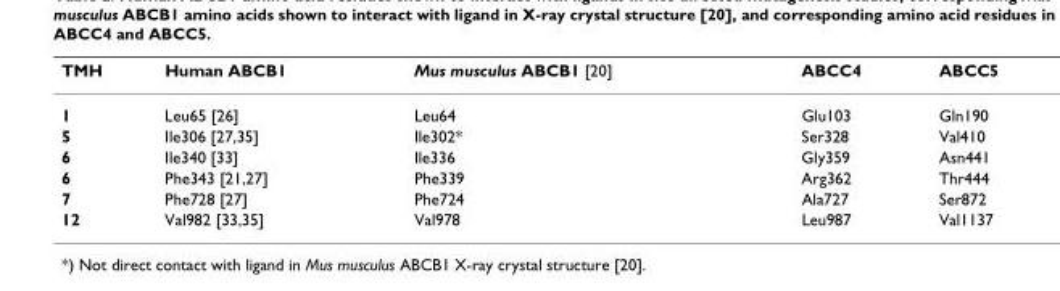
<table><thead><tr><td>TMH</td><td>Human ABCB1</td><td>Mus musculus ABCB1 [20]</td><td>ABCC4</td><td>ABCC5</td></tr></thead><tbody><tr><td>1</td><td>Leu65 [26]</td><td>Leu64</td><td>Glu103</td><td>Gln190</td></tr><tr><td>5</td><td>Ile306 [27,35]</td><td>Ile302*</td><td>Ser328</td><td>Val410</td></tr><tr><td>6</td><td>Ile340 [33]</td><td>Ile336</td><td>Gly359</td><td>Asn441</td></tr><tr><td>6</td><td>Phe343 [21,27]</td><td>Phe339</td><td>Arg362</td><td>Thr444</td></tr><tr><td>7</td><td>Phe728 [27]</td><td>Phe724</td><td>Ala727</td><td>Ser872</td></tr><tr><td>12</td><td>Val982 [33,35]</td><td>Val978</td><td>Leu987</td><td>Val1137</td></tr></tbody></table>